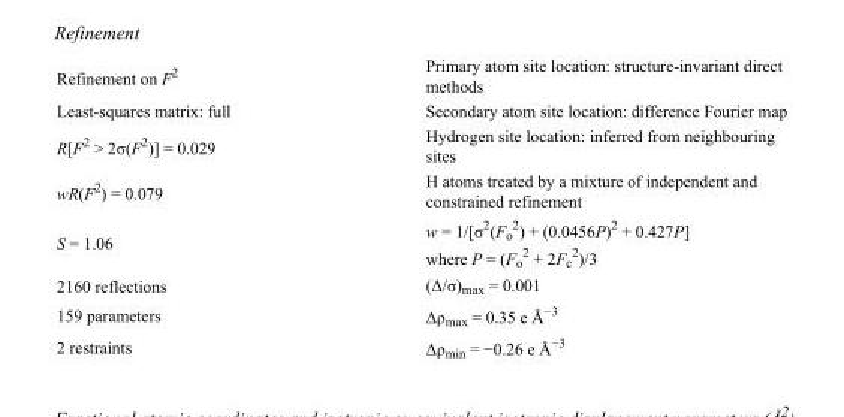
<table><tbody><tr><td>Refinement on F<sup>2</sup></td><td>Primary atom site location: structure-invariant direct methods</td></tr><tr><td>Least-squares matrix: full</td><td>Secondary atom site location: difference Fourier map</td></tr><tr><td>R[F<sup>2</sup> &gt; 2σ(F<sup>2</sup>)] = 0.029</td><td>Hydrogen site location: inferred from neighbouring sites</td></tr><tr><td>wR(F<sup>2</sup>) = 0.079</td><td>H atoms treated by a mixture of independent and constrained refinement</td></tr><tr><td>S = 1.06</td><td>w = 1/[σ<sup>2</sup>(F<sub>o</sub> <sup>2</sup>) + (0.0456P)<sup>2</sup> + 0.427P] where P = (F<sub>o</sub> <sup>2</sup> + 2F<sub>c</sub> <sup>2</sup>)/3</td></tr><tr><td>2160 reflections</td><td>(Δ/σ)<sub>max</sub> = 0.001</td></tr><tr><td>159 parameters</td><td>Δρ<sub>max</sub> = 0.35 e Å<sup>−3</sup></td></tr><tr><td>2 restraints</td><td>Δρ<sub>min</sub> = −0.26 e Å<sup>−3</sup></td></tr></tbody></table>